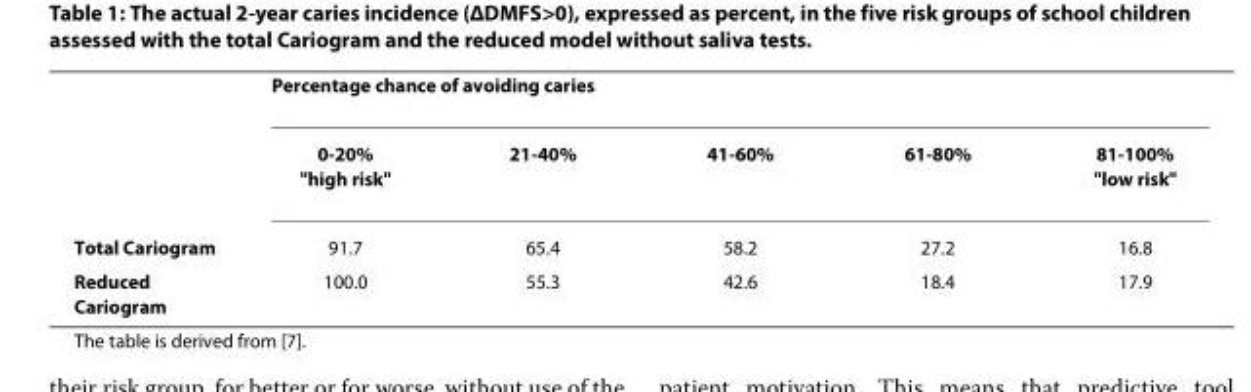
<table><thead><tr><td rowspan="2"></td><td colspan="5">Percentage chance of avoiding caries</td></tr><tr><td>0-20% &quot;high risk&quot;</td><td>21-40%</td><td>41-60%</td><td>61-80%</td><td>81-100% &quot;low risk&quot;</td></tr></thead><tbody><tr><td>Total Cariogram</td><td>91.7</td><td>65.4</td><td>58.2</td><td>27.2</td><td>16.8</td></tr><tr><td>Reduced Cariogram</td><td>100.0</td><td>55.3</td><td>42.6</td><td>18.4</td><td>17.9</td></tr></tbody></table>